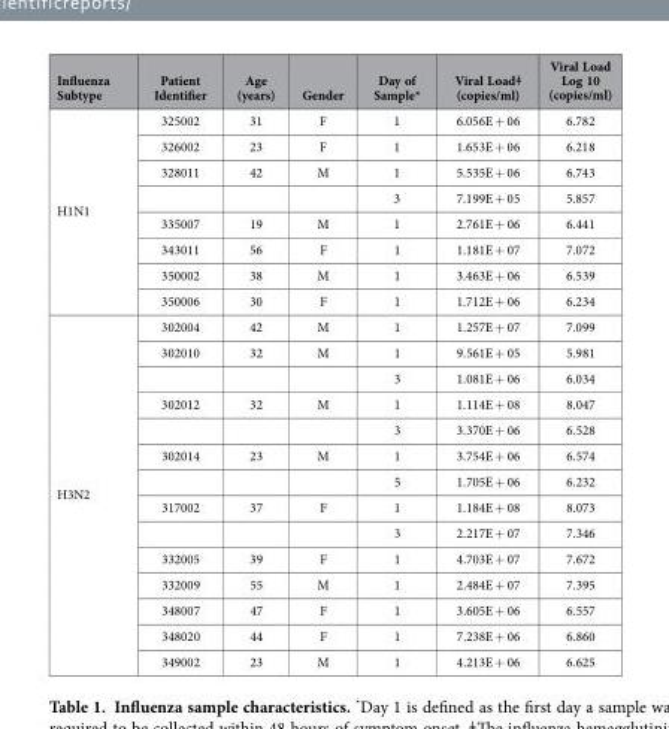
<table><thead><tr><td>Influenza Subtype</td><td>Patient Identifier</td><td>Age (years)</td><td>Gender</td><td>Day of Sample*</td><td>Viral Loadǂ (copies/ml)</td><td>Viral Load Log 10 (copies/ml)</td></tr></thead><tbody><tr><td rowspan="8">H1N1</td><td>325002</td><td>31</td><td>F</td><td>1</td><td>6.056E + 06</td><td>6.782</td></tr><tr><td>326002</td><td>23</td><td>F</td><td>1</td><td>1.653E + 06</td><td>6.218</td></tr><tr><td>328011</td><td>42</td><td>M</td><td>1</td><td>5.535E + 06</td><td>6.743</td></tr><tr><td></td><td></td><td></td><td>3</td><td>7.199E + 05</td><td>5.857</td></tr><tr><td>335007</td><td>19</td><td>M</td><td>1</td><td>2.761E + 06</td><td>6.441</td></tr><tr><td>343011</td><td>56</td><td>F</td><td>1</td><td>1.181E + 07</td><td>7.072</td></tr><tr><td>350002</td><td>38</td><td>M</td><td>1</td><td>3.463E + 06</td><td>6.539</td></tr><tr><td>350006</td><td>30</td><td>F</td><td>1</td><td>1.712E + 06</td><td>6.234</td></tr><tr><td rowspan="14">H3N2</td><td>302004</td><td>42</td><td>M</td><td>1</td><td>1.257E + 07</td><td>7.099</td></tr><tr><td>302010</td><td>32</td><td>M</td><td>1</td><td>9.561E + 05</td><td>5.981</td></tr><tr><td></td><td></td><td></td><td>3</td><td>1.081E + 06</td><td>6.034</td></tr><tr><td>302012</td><td>32</td><td>M</td><td>1</td><td>1.114E + 08</td><td>8.047</td></tr><tr><td></td><td></td><td></td><td>3</td><td>3.370E + 06</td><td>6.528</td></tr><tr><td>302014</td><td>23</td><td>M</td><td>1</td><td>3.754E + 06</td><td>6.574</td></tr><tr><td></td><td></td><td></td><td>5</td><td>1.705E + 06</td><td>6.232</td></tr><tr><td>317002</td><td>37</td><td>F</td><td>1</td><td>1.184E + 08</td><td>8.073</td></tr><tr><td></td><td></td><td></td><td>3</td><td>2.217E + 07</td><td>7.346</td></tr><tr><td>332005</td><td>39</td><td>F</td><td>1</td><td>4.703E + 07</td><td>7.672</td></tr><tr><td>332009</td><td>55</td><td>M</td><td>1</td><td>2.484E + 07</td><td>7.395</td></tr><tr><td>348007</td><td>47</td><td>F</td><td>1</td><td>3.605E + 06</td><td>6.557</td></tr><tr><td>348020</td><td>44</td><td>F</td><td>1</td><td>7.238E + 06</td><td>6.860</td></tr><tr><td>349002</td><td>23</td><td>M</td><td>1</td><td>4.213E + 06</td><td>6.625</td></tr></tbody></table>